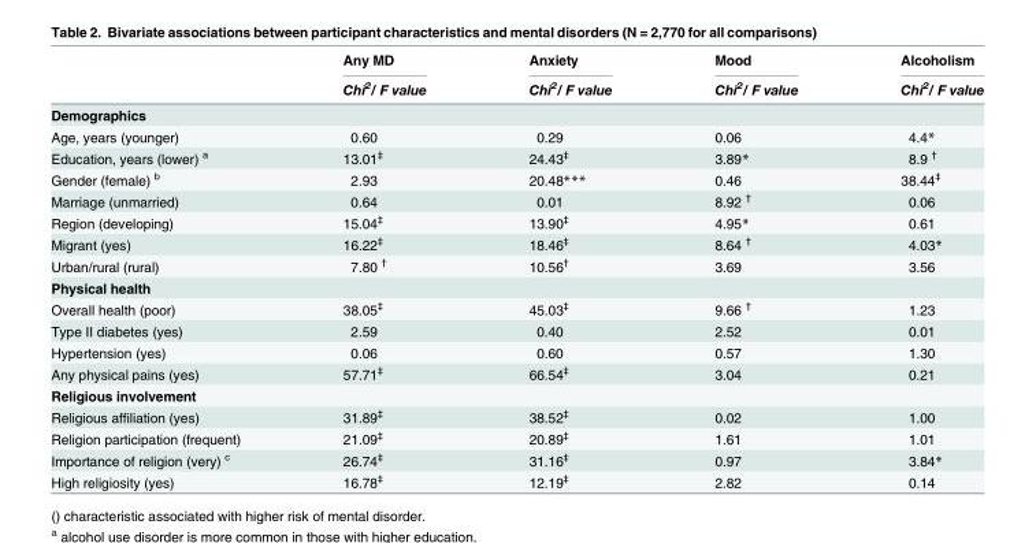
<table><thead><tr><td rowspan="2"></td><td rowspan="2">Any MD Chi<sup>2</sup>/ F value</td><td rowspan="2">Anxiety Chi<sup>2</sup>/ F value</td><td rowspan="2">Mood Chi<sup>2</sup>/ F value</td><td rowspan="2">Alcoholism Chi<sup>2</sup>/ F value</td></tr><tr></tr></thead><tbody><tr><td colspan="5">Demographics</td></tr><tr><td>Age, years (younger)</td><td>0.60</td><td>0.29</td><td>0.06</td><td>4.4*</td></tr><tr><td>Education, years (lower) <sup>a</sup></td><td>13.01<sup>‡</sup></td><td>24.43<sup>‡</sup></td><td>3.89*</td><td>8.9 <sup>†</sup></td></tr><tr><td>Gender (female) <sup>b</sup></td><td>2.93</td><td>20.48***</td><td>0.46</td><td>38.44<sup>‡</sup></td></tr><tr><td>Marriage (unmarried)</td><td>0.64</td><td>0.01</td><td>8.92 <sup>†</sup></td><td>0.06</td></tr><tr><td>Region (developing)</td><td>15.04<sup>‡</sup></td><td>13.90<sup>‡</sup></td><td>4.95*</td><td>0.61</td></tr><tr><td>Migrant (yes)</td><td>16.22<sup>‡</sup></td><td>18.46<sup>‡</sup></td><td>8.64 <sup>†</sup></td><td>4.03*</td></tr><tr><td>Urban/rural (rural)</td><td>7.80 <sup>†</sup></td><td>10.56<sup>†</sup></td><td>3.69</td><td>3.56</td></tr><tr><td colspan="5">Physical health</td></tr><tr><td>Overall health (poor)</td><td>38.05<sup>‡</sup></td><td>45.03<sup>‡</sup></td><td>9.66 <sup>†</sup></td><td>1.23</td></tr><tr><td>Type II diabetes (yes)</td><td>2.59</td><td>0.40</td><td>2.52</td><td>0.01</td></tr><tr><td>Hypertension (yes)</td><td>0.06</td><td>0.60</td><td>0.57</td><td>1.30</td></tr><tr><td>Any physical pains (yes)</td><td>57.71<sup>‡</sup></td><td>66.54<sup>‡</sup></td><td>3.04</td><td>0.21</td></tr><tr><td colspan="5">Religious involvement</td></tr><tr><td>Religious affiliation (yes)</td><td>31.89<sup>‡</sup></td><td>38.52<sup>‡</sup></td><td>0.02</td><td>1.00</td></tr><tr><td>Religion participation (frequent)</td><td>21.09<sup>‡</sup></td><td>20.89<sup>‡</sup></td><td>1.61</td><td>1.01</td></tr><tr><td>Importance of religion (very) <sup>c</sup></td><td>26.74<sup>‡</sup></td><td>31.16<sup>‡</sup></td><td>0.97</td><td>3.84*</td></tr><tr><td>High religiosity (yes)</td><td>16.78<sup>‡</sup></td><td>12.19<sup>‡</sup></td><td>2.82</td><td>0.14</td></tr></tbody></table>